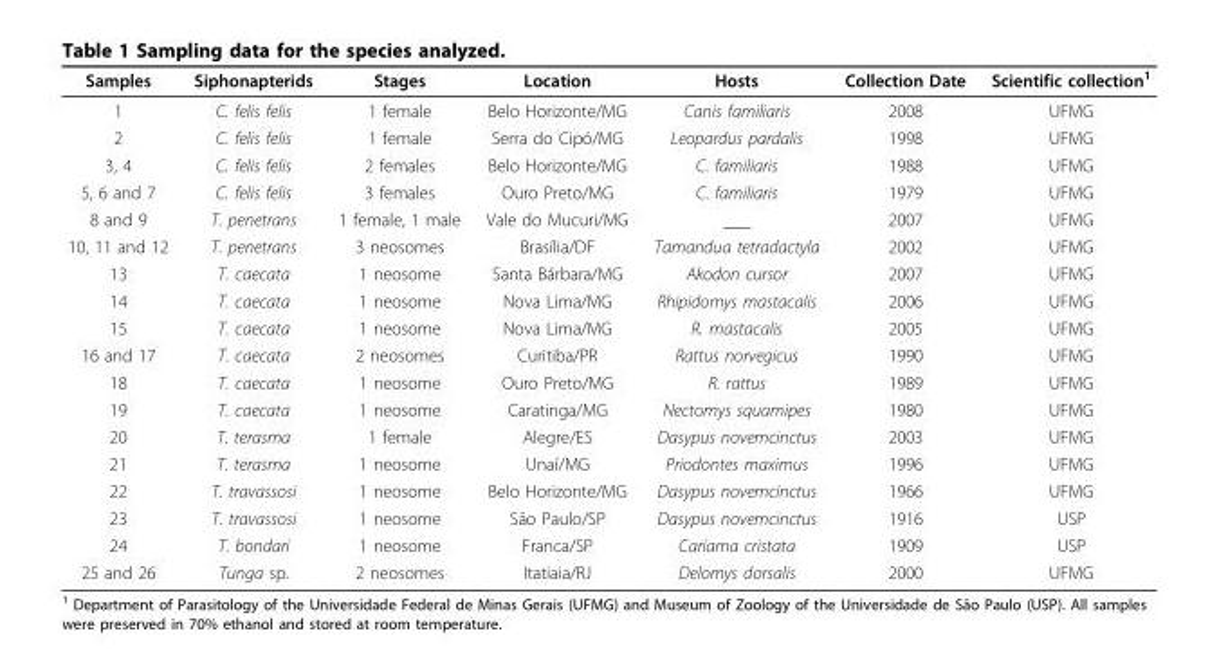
<table><thead><tr><td>Samples</td><td>Siphonapterids</td><td>Stages</td><td>Location</td><td>Hosts</td><td>Collection Date</td><td>Scientific collection<sup>1</sup></td></tr></thead><tbody><tr><td>1</td><td>C. felis felis</td><td>1 female</td><td>Belo Horizonte/MG</td><td>Canis familiaris</td><td>2008</td><td>UFMG</td></tr><tr><td>2</td><td>C. felis felis</td><td>1 female</td><td>Serra do Cipó/MG</td><td>Leopardus pardalis</td><td>1998</td><td>UFMG</td></tr><tr><td>3, 4</td><td>C. felis felis</td><td>2 females</td><td>Belo Horizonte/MG</td><td>C. familiaris</td><td>1988</td><td>UFMG</td></tr><tr><td>5, 6 and 7</td><td>C. felis felis</td><td>3 females</td><td>Ouro Preto/MG</td><td>C. familiaris</td><td>1979</td><td>UFMG</td></tr><tr><td>8 and 9</td><td>T. penetrans</td><td>1 female, 1 male</td><td>Vale do Mucuri/MG</td><td>___</td><td>2007</td><td>UFMG</td></tr><tr><td>10, 11 and 12</td><td>T. penetrans</td><td>3 neosomes</td><td>Brasília/DF</td><td>Tamandua tetradactyla</td><td>2002</td><td>UFMG</td></tr><tr><td>13</td><td>T. caecata</td><td>1 neosome</td><td>Santa Bárbara/MG</td><td>Akodon cursor</td><td>2007</td><td>UFMG</td></tr><tr><td>14</td><td>T. caecata</td><td>1 neosome</td><td>Nova Lima/MG</td><td>Rhipidomys mastacalis</td><td>2006</td><td>UFMG</td></tr><tr><td>15</td><td>T. caecata</td><td>1 neosome</td><td>Nova Lima/MG</td><td>R. mastacalis</td><td>2005</td><td>UFMG</td></tr><tr><td>16 and 17</td><td>T. caecata</td><td>2 neosomes</td><td>Curitiba/PR</td><td>Rattus norvegicus</td><td>1990</td><td>UFMG</td></tr><tr><td>18</td><td>T. caecata</td><td>1 neosome</td><td>Ouro Preto/MG</td><td>R. rattus</td><td>1989</td><td>UFMG</td></tr><tr><td>19</td><td>T. caecata</td><td>1 neosome</td><td>Caratinga/MG</td><td>Nectomys squamipes</td><td>1980</td><td>UFMG</td></tr><tr><td>20</td><td>T. terasma</td><td>1 female</td><td>Alegre/ES</td><td>Dasypus novemcinctus</td><td>2003</td><td>UFMG</td></tr><tr><td>21</td><td>T. terasma</td><td>1 neosome</td><td>Unaí/MG</td><td>Priodontes maximus</td><td>1996</td><td>UFMG</td></tr><tr><td>22</td><td>T. travassosi</td><td>1 neosome</td><td>Belo Horizonte/MG</td><td>Dasypus novemcinctus</td><td>1966</td><td>UFMG</td></tr><tr><td>23</td><td>T. travassosi</td><td>1 neosome</td><td>São Paulo/SP</td><td>Dasypus novemcinctus</td><td>1916</td><td>USP</td></tr><tr><td>24</td><td>T. bondari</td><td>1 neosome</td><td>Franca/SP</td><td>Cariama cristata</td><td>1909</td><td>USP</td></tr><tr><td>25 and 26</td><td>Tunga sp.</td><td>2 neosomes</td><td>Itatiaia/RJ</td><td>Delomys dorsalis</td><td>2000</td><td>UFMG</td></tr></tbody></table>